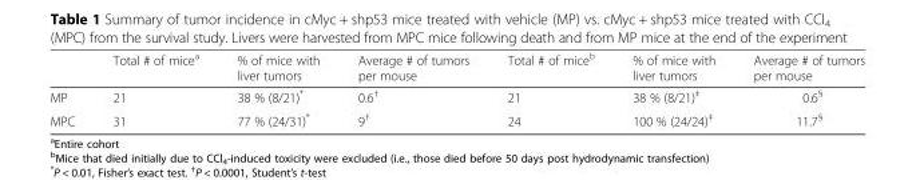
<table><thead><tr><td></td><td>Total # of mice<sup>a</sup></td><td>% of mice with liver tumors</td><td>Average # of tumors per mouse</td><td>Total # of mice<sup>b</sup></td><td>% of mice with liver tumors</td><td>Average # of tumors per mouse</td></tr></thead><tbody><tr><td>MP</td><td>21</td><td>38 % (8/21)*</td><td>0.6<sup>†</sup></td><td>21</td><td>38 % (8/21)<sup>‡</sup></td><td>0.6<sup>§</sup></td></tr><tr><td>MPC</td><td>31</td><td>77 % (24/31)*</td><td>9<sup>†</sup></td><td>24</td><td>100 % (24/24)<sup>‡</sup></td><td>11.7<sup>§</sup></td></tr></tbody></table>